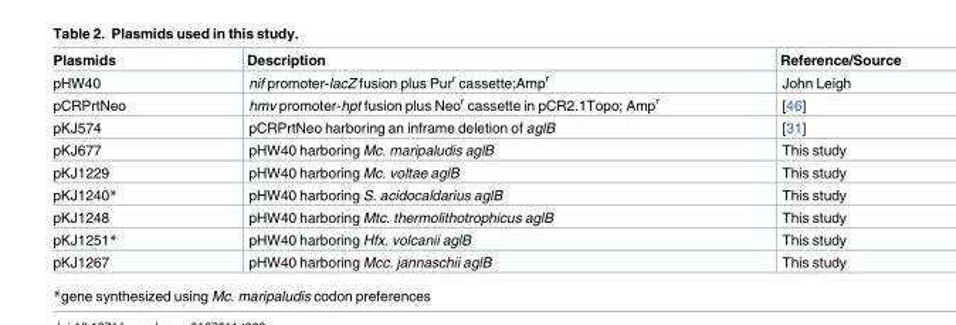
<table><thead><tr><td>Plasmids</td><td>Description</td><td>Reference/Source</td></tr></thead><tbody><tr><td>pHW40</td><td>nif promoter-lacZ fusion plus Pur<sup>r</sup> cassette;Amp<sup>r</sup></td><td>John Leigh</td></tr><tr><td>pCRPrtNeo</td><td>hmv promoter-hpt fusion plus Neo<sup>r</sup> cassette in pCR2.1Topo; Amp<sup>r</sup></td><td>[46]</td></tr><tr><td>pKJ574</td><td>pCRPrtNeo harboring an inframe deletion of aglB</td><td>[31]</td></tr><tr><td>pKJ677</td><td>pHW40 harboring Mc. maripaludis aglB</td><td>This study</td></tr><tr><td>pKJ1229</td><td>pHW40 harboring Mc. voltae aglB</td><td>This study</td></tr><tr><td>pKJ1240*</td><td>pHW40 harboring S. acidocaldarius aglB</td><td>This study</td></tr><tr><td>pKJ1248</td><td>pHW40 harboring Mtc. thermolithotrophicus aglB</td><td>This study</td></tr><tr><td>pKJ1251*</td><td>pHW40 harboring Hfx. volcanii aglB</td><td>This study</td></tr><tr><td>pKJ1267</td><td>pHW40 harboring Mcc. jannaschii aglB</td><td>This study</td></tr></tbody></table>